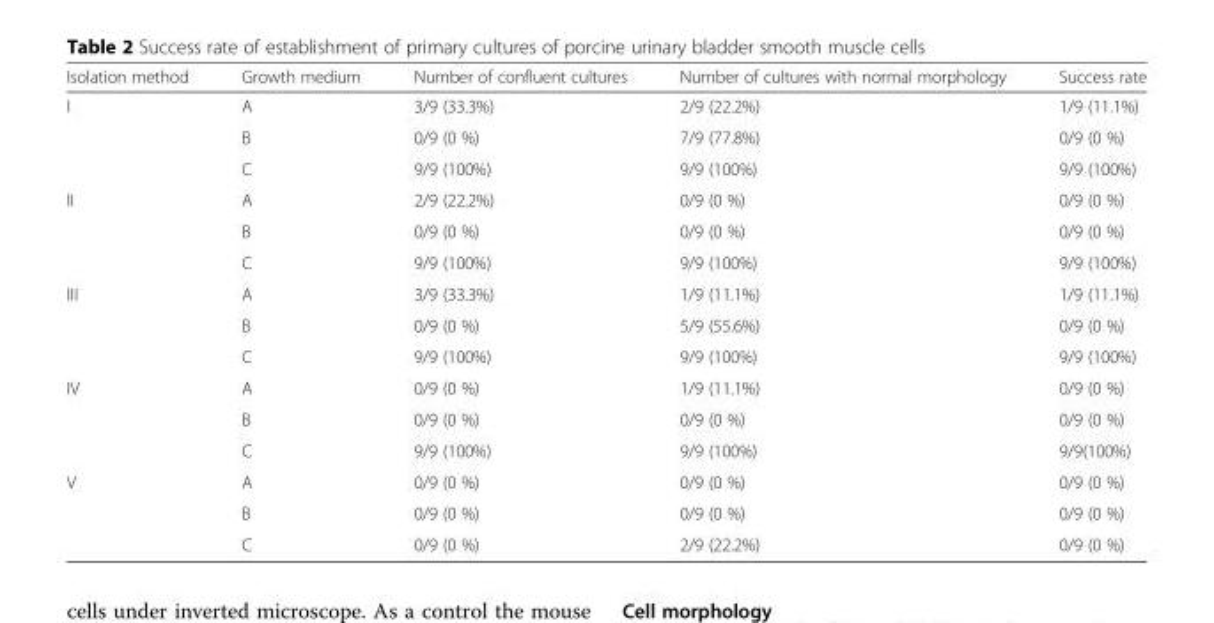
<table><thead><tr><td>Isolation method</td><td>Growth medium</td><td>Number of confluent cultures</td><td>Number of cultures with normal morphology</td><td>Success rate</td></tr></thead><tbody><tr><td rowspan="3">I</td><td>A</td><td>3/9 (33.3%)</td><td>2/9 (22.2%)</td><td>1/9 (11.1%)</td></tr><tr><td>B</td><td>0/9 (0 %)</td><td>7/9 (77.8%)</td><td>0/9 (0 %)</td></tr><tr><td>C</td><td>9/9 (100%)</td><td>9/9 (100%)</td><td>9/9 (100%)</td></tr><tr><td rowspan="3">II</td><td>A</td><td>2/9 (22.2%)</td><td>0/9 (0 %)</td><td>0/9 (0 %)</td></tr><tr><td>B</td><td>0/9 (0 %)</td><td>0/9 (0 %)</td><td>0/9 (0 %)</td></tr><tr><td>C</td><td>9/9 (100%)</td><td>9/9 (100%)</td><td>9/9 (100%)</td></tr><tr><td rowspan="3">III</td><td>A</td><td>3/9 (33.3%)</td><td>1/9 (11.1%)</td><td>1/9 (11.1%)</td></tr><tr><td>B</td><td>0/9 (0 %)</td><td>5/9 (55.6%)</td><td>0/9 (0 %)</td></tr><tr><td>C</td><td>9/9 (100%)</td><td>9/9 (100%)</td><td>9/9 (100%)</td></tr><tr><td rowspan="3">IV</td><td>A</td><td>0/9 (0 %)</td><td>1/9 (11.1%)</td><td>0/9 (0 %)</td></tr><tr><td>B</td><td>0/9 (0 %)</td><td>0/9 (0 %)</td><td>0/9 (0 %)</td></tr><tr><td>C</td><td>9/9 (100%)</td><td>9/9 (100%)</td><td>9/9(100%)</td></tr><tr><td rowspan="3">V</td><td>A</td><td>0/9 (0 %)</td><td>0/9 (0 %)</td><td>0/9 (0 %)</td></tr><tr><td>B</td><td>0/9 (0 %)</td><td>0/9 (0 %)</td><td>0/9 (0 %)</td></tr><tr><td>C</td><td>0/9 (0 %)</td><td>2/9 (22.2%)</td><td>0/9 (0 %)</td></tr></tbody></table>